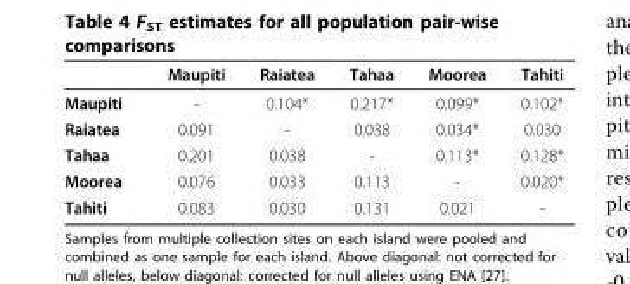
<table><thead><tr><td></td><td>Maupiti</td><td>Raiatea</td><td>Tahaa</td><td>Moorea</td><td>Tahiti</td></tr></thead><tbody><tr><td>Maupiti</td><td>-</td><td>0.104*</td><td>0.217*</td><td>0.099*</td><td>0.102*</td></tr><tr><td>Raiatea</td><td>0.091</td><td>-</td><td>0.038</td><td>0.034*</td><td>0.030</td></tr><tr><td>Tahaa</td><td>0.201</td><td>0.038</td><td>-</td><td>0.113*</td><td>0.128*</td></tr><tr><td>Moorea</td><td>0.076</td><td>0.033</td><td>0.113</td><td>-</td><td>0.020*</td></tr><tr><td>Tahiti</td><td>0.083</td><td>0.030</td><td>0.131</td><td>0.021</td><td>-</td></tr></tbody></table>